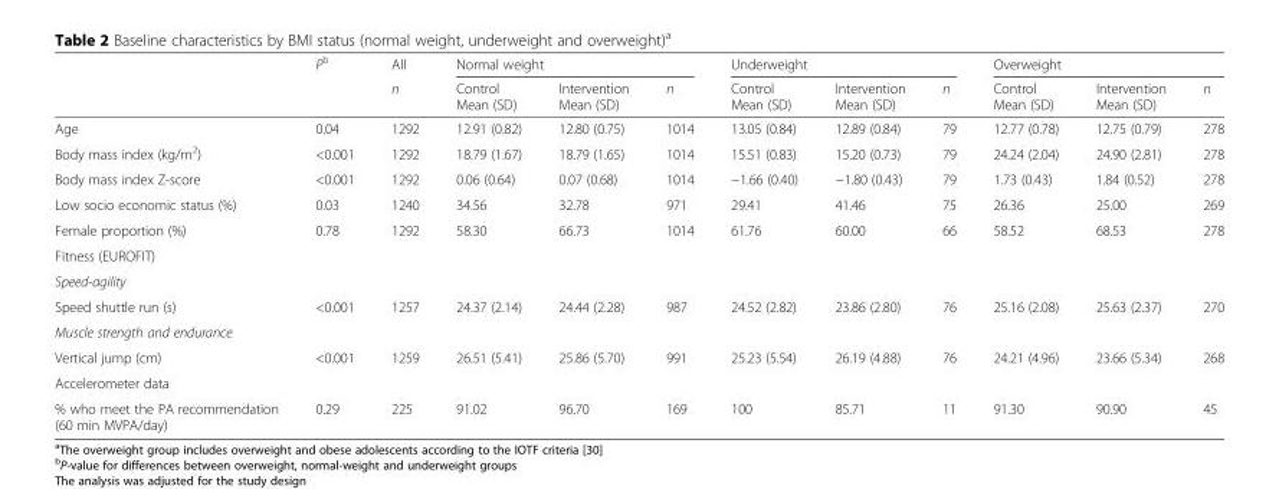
<table><thead><tr><td rowspan="2"></td><td rowspan="2">P<sup>b</sup></td><td rowspan="2">All n</td><td colspan="3">Normal weight</td><td colspan="3">Underweight</td><td colspan="3">Overweight</td></tr><tr><td>Control Mean (SD)</td><td>Intervention Mean (SD)</td><td>n</td><td>Control Mean (SD)</td><td>Intervention Mean (SD)</td><td>n</td><td>Control Mean (SD)</td><td>Intervention Mean (SD)</td><td>n</td></tr></thead><tbody><tr><td>Age</td><td>0.04</td><td>1292</td><td>12.91 (0.82)</td><td>12.80 (0.75)</td><td>1014</td><td>13.05 (0.84)</td><td>12.89 (0.84)</td><td>79</td><td>12.77 (0.78)</td><td>12.75 (0.79)</td><td>278</td></tr><tr><td>Body mass index (kg/m<sup>2</sup>)</td><td>&lt;0.001</td><td>1292</td><td>18.79 (1.67)</td><td>18.79 (1.65)</td><td>1014</td><td>15.51 (0.83)</td><td>15.20 (0.73)</td><td>79</td><td>24.24 (2.04)</td><td>24.90 (2.81)</td><td>278</td></tr><tr><td>Body mass index Z-score</td><td>&lt;0.001</td><td>1292</td><td>0.06 (0.64)</td><td>0.07 (0.68)</td><td>1014</td><td>−1.66 (0.40)</td><td>−1.80 (0.43)</td><td>79</td><td>1.73 (0.43)</td><td>1.84 (0.52)</td><td>278</td></tr><tr><td>Low socio economic status (%)</td><td>0.03</td><td>1240</td><td>34.56</td><td>32.78</td><td>971</td><td>29.41</td><td>41.46</td><td>75</td><td>26.36</td><td>25.00</td><td>269</td></tr><tr><td>Female proportion (%)</td><td>0.78</td><td>1292</td><td>58.30</td><td>66.73</td><td>1014</td><td>61.76</td><td>60.00</td><td>66</td><td>58.52</td><td>68.53</td><td>278</td></tr><tr><td colspan="12">Fitness (EUROFIT)</td></tr><tr><td colspan="12">Speed-agility</td></tr><tr><td>Speed shuttle run (s)</td><td>&lt;0.001</td><td>1257</td><td>24.37 (2.14)</td><td>24.44 (2.28)</td><td>987</td><td>24.52 (2.82)</td><td>23.86 (2.80)</td><td>76</td><td>25.16 (2.08)</td><td>25.63 (2.37)</td><td>270</td></tr><tr><td colspan="12">Muscle strength and endurance</td></tr><tr><td>Vertical jump (cm)</td><td>&lt;0.001</td><td>1259</td><td>26.51 (5.41)</td><td>25.86 (5.70)</td><td>991</td><td>25.23 (5.54)</td><td>26.19 (4.88)</td><td>76</td><td>24.21 (4.96)</td><td>23.66 (5.34)</td><td>268</td></tr><tr><td colspan="12">Accelerometer data</td></tr><tr><td>% who meet the PA recommendation (60 min MVPA/day)</td><td>0.29</td><td>225</td><td>91.02</td><td>96.70</td><td>169</td><td>100</td><td>85.71</td><td>11</td><td>91.30</td><td>90.90</td><td>45</td></tr></tbody></table>